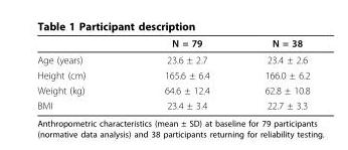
<table><thead><tr><td></td><td>N = 79</td><td>N = 38</td></tr></thead><tbody><tr><td>Age (years)</td><td>23.6 ± 2.7</td><td>23.4 ± 2.6</td></tr><tr><td>Height (cm)</td><td>165.6 ± 6.4</td><td>166.0 ± 6.2</td></tr><tr><td>Weight (kg)</td><td>64.6 ± 12.4</td><td>62.8 ± 10.8</td></tr><tr><td>BMI</td><td>23.4 ± 3.4</td><td>22.7 ± 3.3</td></tr></tbody></table>